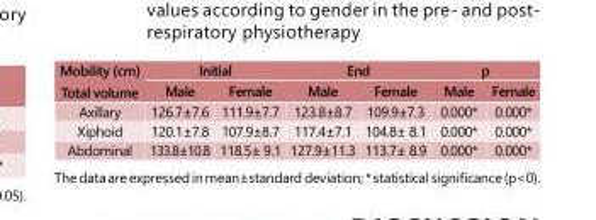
<table><tbody><tr><td rowspan="2">Mobility (cm) Total volume</td><td colspan="2">Initial</td><td colspan="2">End</td><td colspan="2">p</td></tr><tr><td>Male</td><td>Female</td><td>Male</td><td>Female</td><td>Male</td><td>Female</td></tr><tr><td>Axillary</td><td>126.7±7.6</td><td>111.9±7.7</td><td>123.8±8.7</td><td>109.9±7.3</td><td>0.000*</td><td>0.000*</td></tr><tr><td>Xiphoid</td><td>120.1±7.8</td><td>107.9±8.7</td><td>117.4±7.1</td><td>104.8± 8.1</td><td>0.000*</td><td>0.000*</td></tr><tr><td>Abdominal</td><td>133.8±10.8</td><td>118.5± 9.1</td><td>127.9±11.3</td><td>113.7± 8.9</td><td>0.000*</td><td>0.000*</td></tr></tbody></table>